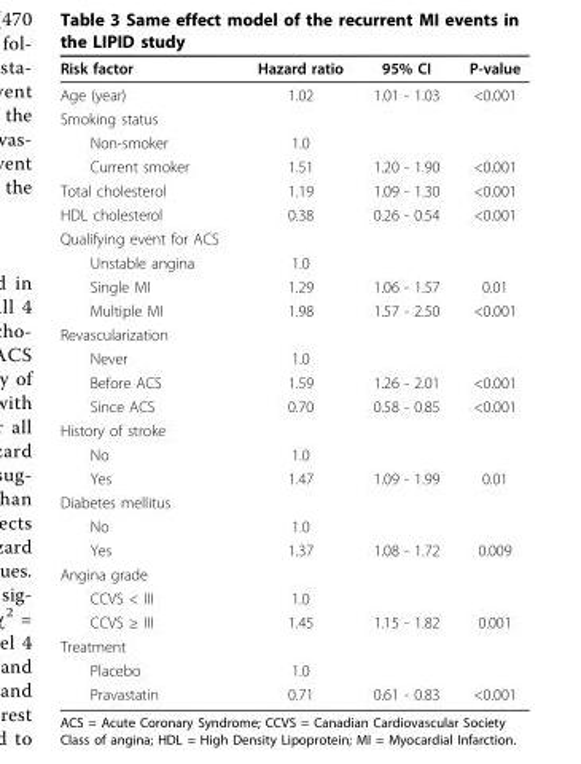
<table><thead><tr><td>Risk factor</td><td>Hazard ratio</td><td>95% CI</td><td>P-value</td></tr></thead><tbody><tr><td>Age (year)</td><td>1.02</td><td>1.01 - 1.03</td><td>&lt;0.001</td></tr><tr><td colspan="4">Smoking status</td></tr><tr><td>Non-smoker</td><td>1.0</td><td></td><td></td></tr><tr><td>Current smoker</td><td>1.51</td><td>1.20 - 1.90</td><td>&lt;0.001</td></tr><tr><td>Total cholesterol</td><td>1.19</td><td>1.09 - 1.30</td><td>&lt;0.001</td></tr><tr><td>HDL cholesterol</td><td>0.38</td><td>0.26 - 0.54</td><td>&lt;0.001</td></tr><tr><td colspan="4">Qualifying event for ACS</td></tr><tr><td>Unstable angina</td><td>1.0</td><td></td><td></td></tr><tr><td>Single MI</td><td>1.29</td><td>1.06 - 1.57</td><td>0.01</td></tr><tr><td>Multiple MI</td><td>1.98</td><td>1.57 - 2.50</td><td>&lt;0.001</td></tr><tr><td colspan="4">Revascularization</td></tr><tr><td>Never</td><td>1.0</td><td></td><td></td></tr><tr><td>Before ACS</td><td>1.59</td><td>1.26 - 2.01</td><td>&lt;0.001</td></tr><tr><td>Since ACS</td><td>0.70</td><td>0.58 - 0.85</td><td>&lt;0.001</td></tr><tr><td colspan="4">History of stroke</td></tr><tr><td>No</td><td>1.0</td><td></td><td></td></tr><tr><td>Yes</td><td>1.47</td><td>1.09 - 1.99</td><td>0.01</td></tr><tr><td colspan="4">Diabetes mellitus</td></tr><tr><td>No</td><td>1.0</td><td></td><td></td></tr><tr><td>Yes</td><td>1.37</td><td>1.08 - 1.72</td><td>0.009</td></tr><tr><td colspan="4">Angina grade</td></tr><tr><td>CCVS &lt; III</td><td>1.0</td><td></td><td></td></tr><tr><td>CCVS ≥ III</td><td>1.45</td><td>1.15 - 1.82</td><td>0.001</td></tr><tr><td colspan="4">Treatment</td></tr><tr><td>Placebo</td><td>1.0</td><td></td><td></td></tr><tr><td>Pravastatin</td><td>0.71</td><td>0.61 - 0.83</td><td>&lt;0.001</td></tr></tbody></table>